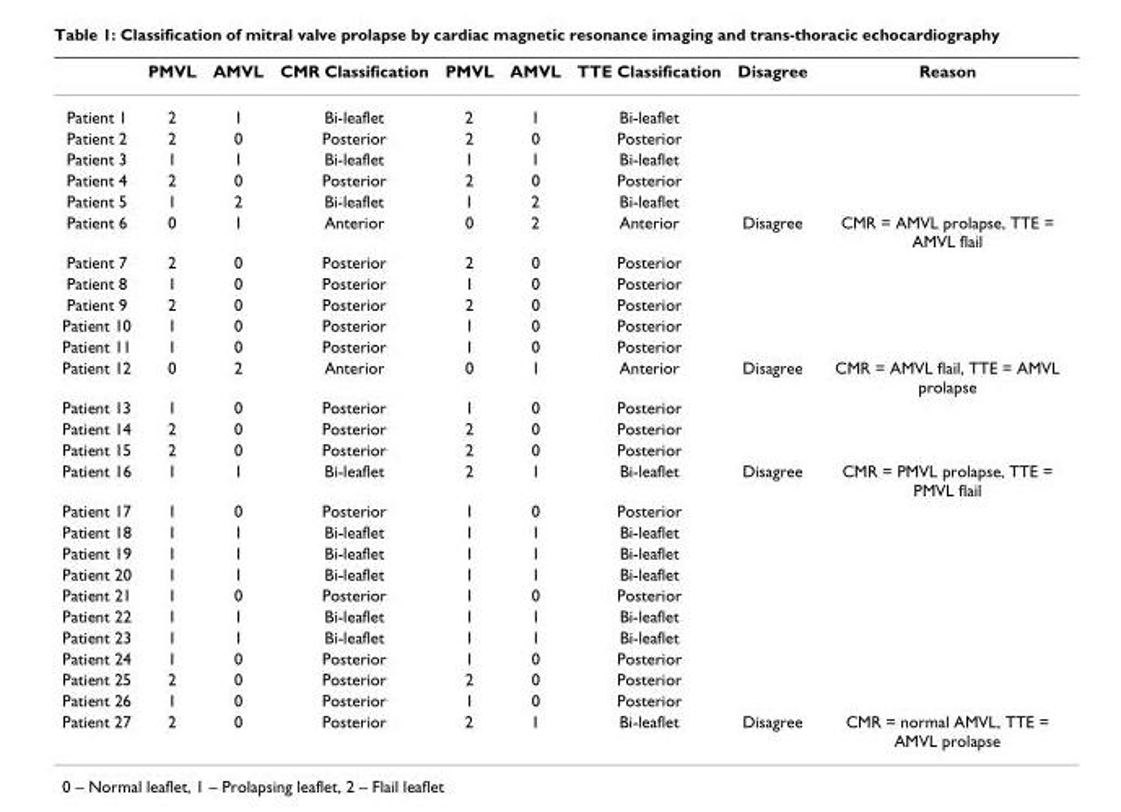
<table><thead><tr><td></td><td>PMVL</td><td>AMVL</td><td>CMR Classification</td><td>PMVL</td><td>AMVL</td><td>TTE Classification</td><td>Disagree</td><td>Reason</td></tr></thead><tbody><tr><td>Patient 1</td><td>2</td><td>1</td><td>Bi-leaflet</td><td>2</td><td>1</td><td>Bi-leaflet</td><td></td><td></td></tr><tr><td>Patient 2</td><td>2</td><td>0</td><td>Posterior</td><td>2</td><td>0</td><td>Posterior</td><td></td><td></td></tr><tr><td>Patient 3</td><td>1</td><td>1</td><td>Bi-leaflet</td><td>1</td><td>1</td><td>Bi-leaflet</td><td></td><td></td></tr><tr><td>Patient 4</td><td>2</td><td>0</td><td>Posterior</td><td>2</td><td>0</td><td>Posterior</td><td></td><td></td></tr><tr><td>Patient 5</td><td>1</td><td>2</td><td>Bi-leaflet</td><td>1</td><td>2</td><td>Bi-leaflet</td><td></td><td></td></tr><tr><td>Patient 6</td><td>0</td><td>1</td><td>Anterior</td><td>0</td><td>2</td><td>Anterior</td><td>Disagree</td><td>CMR = AMVL prolapse, TTE = AMVL flail</td></tr><tr><td>Patient 7</td><td>2</td><td>0</td><td>Posterior</td><td>2</td><td>0</td><td>Posterior</td><td></td><td></td></tr><tr><td>Patient 8</td><td>1</td><td>0</td><td>Posterior</td><td>1</td><td>0</td><td>Posterior</td><td></td><td></td></tr><tr><td>Patient 9</td><td>2</td><td>0</td><td>Posterior</td><td>2</td><td>0</td><td>Posterior</td><td></td><td></td></tr><tr><td>Patient 10</td><td>1</td><td>0</td><td>Posterior</td><td>1</td><td>0</td><td>Posterior</td><td></td><td></td></tr><tr><td>Patient 11</td><td>1</td><td>0</td><td>Posterior</td><td>1</td><td>0</td><td>Posterior</td><td></td><td></td></tr><tr><td>Patient 12</td><td>0</td><td>2</td><td>Anterior</td><td>0</td><td>1</td><td>Anterior</td><td>Disagree</td><td>CMR = AMVL flail, TTE = AMVL prolapse</td></tr><tr><td>Patient 13</td><td>1</td><td>0</td><td>Posterior</td><td>1</td><td>0</td><td>Posterior</td><td></td><td></td></tr><tr><td>Patient 14</td><td>2</td><td>0</td><td>Posterior</td><td>2</td><td>0</td><td>Posterior</td><td></td><td></td></tr><tr><td>Patient 15</td><td>2</td><td>0</td><td>Posterior</td><td>2</td><td>0</td><td>Posterior</td><td></td><td></td></tr><tr><td>Patient 16</td><td>1</td><td>1</td><td>Bi-leaflet</td><td>2</td><td>1</td><td>Bi-leaflet</td><td>Disagree</td><td>CMR = PMVL prolapse, TTE = PMVL flail</td></tr><tr><td>Patient 17</td><td>1</td><td>0</td><td>Posterior</td><td>1</td><td>0</td><td>Posterior</td><td></td><td></td></tr><tr><td>Patient 18</td><td>1</td><td>1</td><td>Bi-leaflet</td><td>1</td><td>1</td><td>Bi-leaflet</td><td></td><td></td></tr><tr><td>Patient 19</td><td>1</td><td>1</td><td>Bi-leaflet</td><td>1</td><td>1</td><td>Bi-leaflet</td><td></td><td></td></tr><tr><td>Patient 20</td><td>1</td><td>1</td><td>Bi-leaflet</td><td>1</td><td>1</td><td>Bi-leaflet</td><td></td><td></td></tr><tr><td>Patient 21</td><td>1</td><td>0</td><td>Posterior</td><td>1</td><td>0</td><td>Posterior</td><td></td><td></td></tr><tr><td>Patient 22</td><td>1</td><td>1</td><td>Bi-leaflet</td><td>1</td><td>1</td><td>Bi-leaflet</td><td></td><td></td></tr><tr><td>Patient 23</td><td>1</td><td>1</td><td>Bi-leaflet</td><td>1</td><td>1</td><td>Bi-leaflet</td><td></td><td></td></tr><tr><td>Patient 24</td><td>1</td><td>0</td><td>Posterior</td><td>1</td><td>0</td><td>Posterior</td><td></td><td></td></tr><tr><td>Patient 25</td><td>2</td><td>0</td><td>Posterior</td><td>2</td><td>0</td><td>Posterior</td><td></td><td></td></tr><tr><td>Patient 26</td><td>1</td><td>0</td><td>Posterior</td><td>1</td><td>0</td><td>Posterior</td><td></td><td></td></tr><tr><td>Patient 27</td><td>2</td><td>0</td><td>Posterior</td><td>2</td><td>1</td><td>Bi-leaflet</td><td>Disagree</td><td>CMR = normal AMVL, TTE = AMVL prolapse</td></tr></tbody></table>